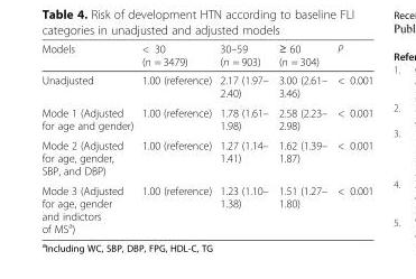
<table><thead><tr><td>Models</td><td>&lt; 30 (n = 3479)</td><td>30–59 (n = 903)</td><td>≥ 60 (n = 304)</td><td>P</td></tr></thead><tbody><tr><td>Unadjusted</td><td>1.00 (reference)</td><td>2.17 (1.97– 2.40)</td><td>3.00 (2.61– 3.46)</td><td>&lt; 0.001</td></tr><tr><td>Mode 1 (Adjusted for age and gender)</td><td>1.00 (reference)</td><td>1.78 (1.61– 1.98)</td><td>2.58 (2.23– 2.98)</td><td>&lt; 0.001</td></tr><tr><td>Mode 2 (Adjusted for age, gender, SBP, and DBP)</td><td>1.00 (reference)</td><td>1.27 (1.14– 1.41)</td><td>1.62 (1.39– 1.87)</td><td>&lt; 0.001</td></tr><tr><td>Mode 3 (Adjusted for age, gender and indictors of MSa)</td><td>1.00 (reference)</td><td>1.23 (1.10– 1.38)</td><td>1.51 (1.27– 1.80)</td><td>&lt; 0.001</td></tr></tbody></table>